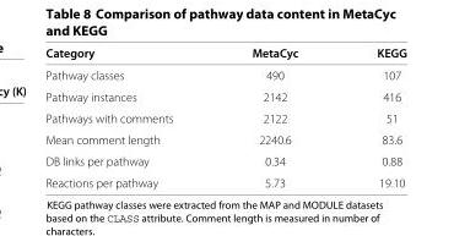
<table><thead><tr><td>Category</td><td>MetaCyc</td><td>KEGG</td></tr></thead><tbody><tr><td>Pathway classes</td><td>490</td><td>107</td></tr><tr><td>Pathway instances</td><td>2142</td><td>416</td></tr><tr><td>Pathways with comments</td><td>2122</td><td>51</td></tr><tr><td>Mean comment length</td><td>2240.6</td><td>83.6</td></tr><tr><td>DB links per pathway</td><td>0.34</td><td>0.88</td></tr><tr><td>Reactions per pathway</td><td>5.73</td><td>19.10</td></tr></tbody></table>